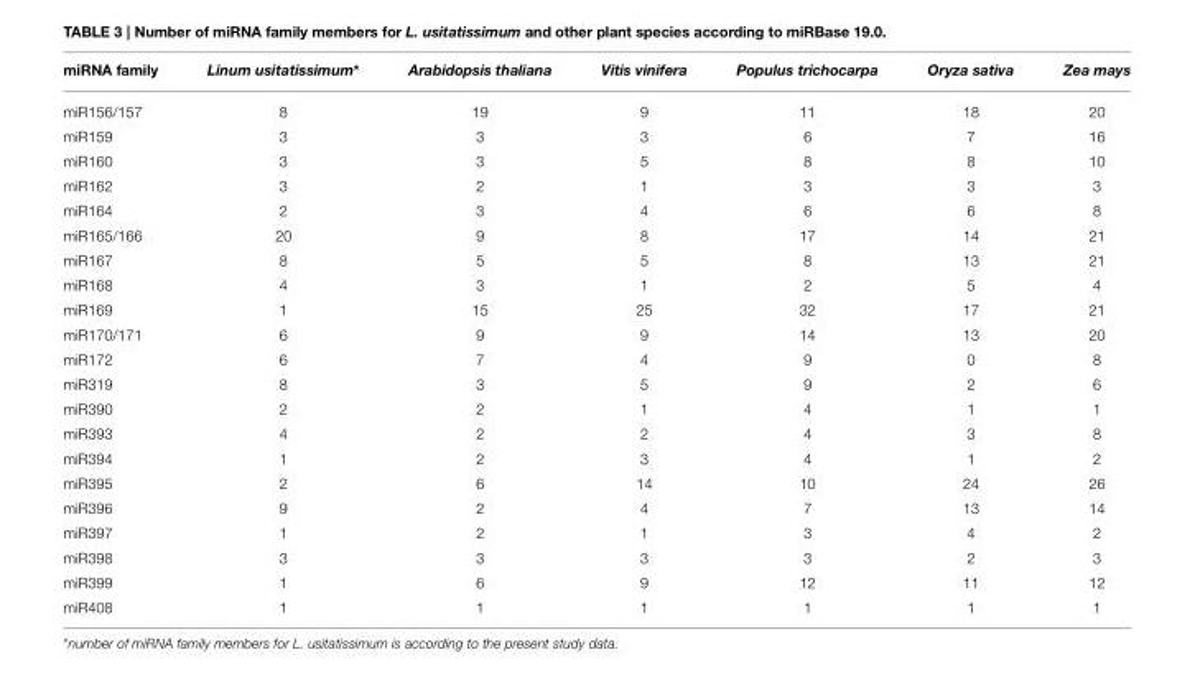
<table><thead><tr><td>miRNA family</td><td>Linum usitatissimum*</td><td>Arabidopsis thaliana</td><td>Vitis vinifera</td><td>Populus trichocarpa</td><td>Oryza sativa</td><td>Zea mays</td></tr></thead><tbody><tr><td>miR156/157</td><td>8</td><td>19</td><td>9</td><td>11</td><td>18</td><td>20</td></tr><tr><td>miR159</td><td>3</td><td>3</td><td>3</td><td>6</td><td>7</td><td>16</td></tr><tr><td>miR160</td><td>3</td><td>3</td><td>5</td><td>8</td><td>8</td><td>10</td></tr><tr><td>miR162</td><td>3</td><td>2</td><td>1</td><td>3</td><td>3</td><td>3</td></tr><tr><td>miR164</td><td>2</td><td>3</td><td>4</td><td>6</td><td>6</td><td>8</td></tr><tr><td>miR165/166</td><td>20</td><td>9</td><td>8</td><td>17</td><td>14</td><td>21</td></tr><tr><td>miR167</td><td>8</td><td>5</td><td>5</td><td>8</td><td>13</td><td>21</td></tr><tr><td>miR168</td><td>4</td><td>3</td><td>1</td><td>2</td><td>5</td><td>4</td></tr><tr><td>miR169</td><td>1</td><td>15</td><td>25</td><td>32</td><td>17</td><td>21</td></tr><tr><td>miR170/171</td><td>6</td><td>9</td><td>9</td><td>14</td><td>13</td><td>20</td></tr><tr><td>miR172</td><td>6</td><td>7</td><td>4</td><td>9</td><td>0</td><td>8</td></tr><tr><td>miR319</td><td>8</td><td>3</td><td>5</td><td>9</td><td>2</td><td>6</td></tr><tr><td>miR390</td><td>2</td><td>2</td><td>1</td><td>4</td><td>1</td><td>1</td></tr><tr><td>miR393</td><td>4</td><td>2</td><td>2</td><td>4</td><td>3</td><td>8</td></tr><tr><td>miR394</td><td>1</td><td>2</td><td>3</td><td>4</td><td>1</td><td>2</td></tr><tr><td>miR395</td><td>2</td><td>6</td><td>14</td><td>10</td><td>24</td><td>26</td></tr><tr><td>miR396</td><td>9</td><td>2</td><td>4</td><td>7</td><td>13</td><td>14</td></tr><tr><td>miR397</td><td>1</td><td>2</td><td>1</td><td>3</td><td>4</td><td>2</td></tr><tr><td>miR398</td><td>3</td><td>3</td><td>3</td><td>3</td><td>2</td><td>3</td></tr><tr><td>miR399</td><td>1</td><td>6</td><td>9</td><td>12</td><td>11</td><td>12</td></tr><tr><td>miR408</td><td>1</td><td>1</td><td>1</td><td>1</td><td>1</td><td>1</td></tr></tbody></table>